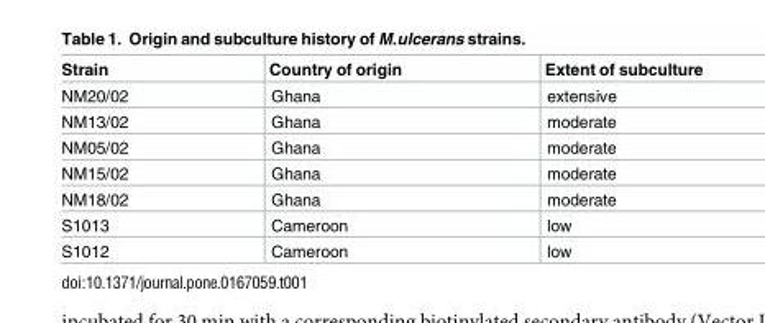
<table><thead><tr><td>Strain</td><td>Country of origin</td><td>Extent of subculture</td></tr></thead><tbody><tr><td>NM20/02</td><td>Ghana</td><td>extensive</td></tr><tr><td>NM13/02</td><td>Ghana</td><td>moderate</td></tr><tr><td>NM05/02</td><td>Ghana</td><td>moderate</td></tr><tr><td>NM15/02</td><td>Ghana</td><td>moderate</td></tr><tr><td>NM18/02</td><td>Ghana</td><td>moderate</td></tr><tr><td>S1013</td><td>Cameroon</td><td>low</td></tr><tr><td>S1012</td><td>Cameroon</td><td>low</td></tr></tbody></table>